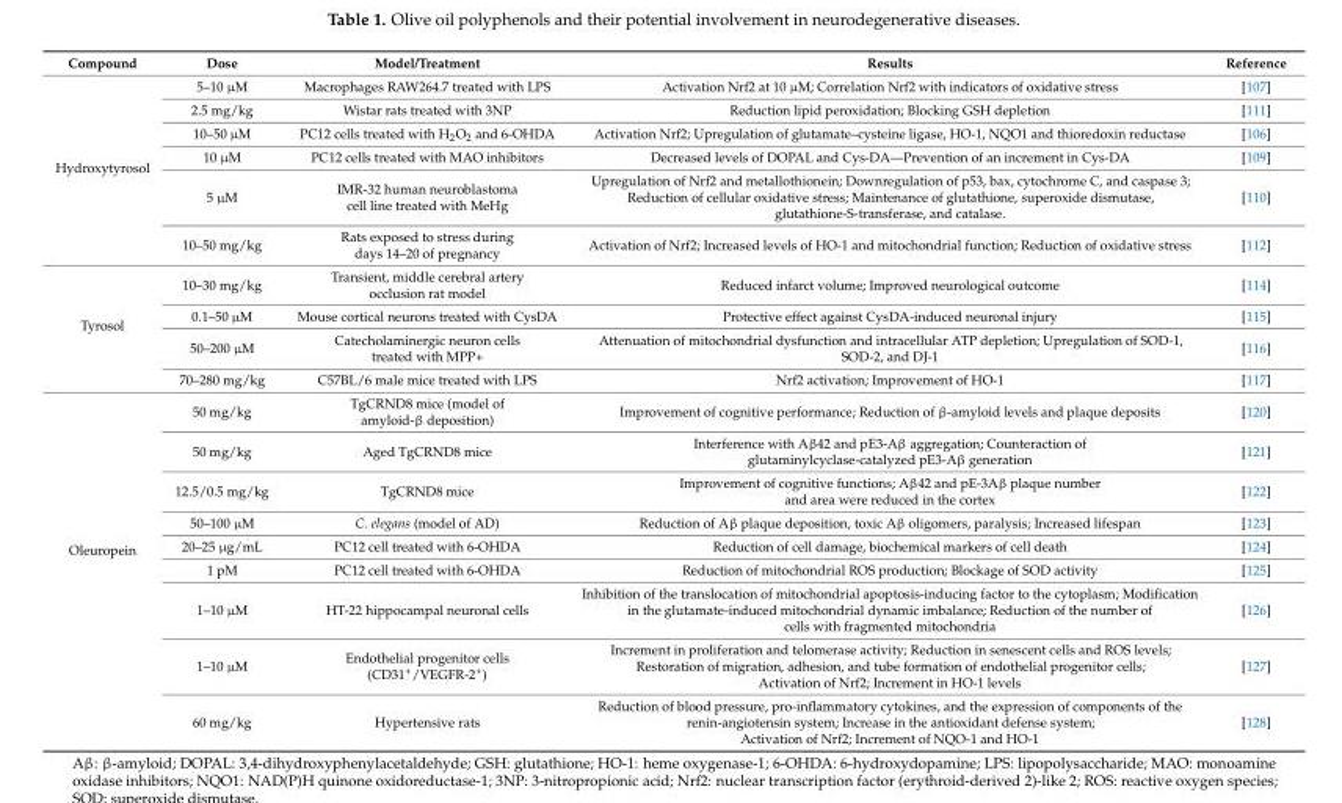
<table><thead><tr><td>Compound</td><td>Dose</td><td>Model/Treatment</td><td>Results</td><td>Reference</td></tr></thead><tbody><tr><td rowspan="6">Hydroxytyrosol</td><td>5–10 µM</td><td>Macrophages RAW264.7 treated with LPS</td><td>Activation Nrf2 at 10 µM; Correlation Nrf2 with indicators of oxidative stress</td><td>[107]</td></tr><tr><td>2.5 mg/kg</td><td>Wistar rats treated with 3NP</td><td>Reduction lipid peroxidation; Blocking GSH depletion</td><td>[111]</td></tr><tr><td>10–50 µM</td><td>PC12 cells treated with H<sub>2</sub>O<sub>2</sub> and 6-OHDA</td><td>Activation Nrf2; Upregulation of glutamate–cysteine ligase, HO-1, NQO1 and thioredoxin reductase</td><td>[106]</td></tr><tr><td>10 µM</td><td>PC12 cells treated with MAO inhibitors</td><td>Decreased levels of DOPAL and Cys-DA—Prevention of an increment in Cys-DA</td><td>[109]</td></tr><tr><td>5 µM</td><td>IMR-32 human neuroblastoma cell line treated with MeHg</td><td>Upregulation of Nrf2 and metallothionein; Downregulation of p53, bax, cytochrome C, and caspase 3; Reduction of cellular oxidative stress; Maintenance of glutathione, superoxide dismutase, glutathione-S-transferase, and catalase.</td><td>[110]</td></tr><tr><td>10–50 mg/kg</td><td>Rats exposed to stress during days 14–20 of pregnancy</td><td>Activation of Nrf2; Increased levels of HO-1 and mitochondrial function; Reduction of oxidative stress</td><td>[112]</td></tr><tr><td rowspan="4">Tyrosol</td><td>10–30 mg/kg</td><td>Transient, middle cerebral artery occlusion rat model</td><td>Reduced infarct volume; Improved neurological outcome</td><td>[114]</td></tr><tr><td>0.1–50 µM</td><td>Mouse cortical neurons treated with CysDA</td><td>Protective effect against CysDA-induced neuronal injury</td><td>[115]</td></tr><tr><td>50–200 µM</td><td>Catecholaminergic neuron cells treated with MPP+</td><td>Attenuation of mitochondrial dysfunction and intracellular ATP depletion; Upregulation of SOD-1, SOD-2, and DJ-1</td><td>[116]</td></tr><tr><td>70–280 mg/kg</td><td>C57BL/6 male mice treated with LPS</td><td>Nrf2 activation; Improvement of HO-1</td><td>[117]</td></tr><tr><td rowspan="9">Oleuropein</td><td>50 mg/kg</td><td>TgCRND8 mice (model of amyloid-β deposition)</td><td>Improvement of cognitive performance; Reduction of β-amyloid levels and plaque deposits</td><td>[120]</td></tr><tr><td>50 mg/kg</td><td>Aged TgCRND8 mice</td><td>Interference with Aβ42 and pE3-Aβ aggregation; Counteraction of glutaminylcyclase-catalyzed pE3-Aβ generation</td><td>[121]</td></tr><tr><td>12.5/0.5 mg/kg</td><td>TgCRND8 mice</td><td>Improvement of cognitive functions; Aβ42 and pE-3Aβ plaque number and area were reduced in the cortex</td><td>[122]</td></tr><tr><td>50–100 µM</td><td>C. elegans (model of AD)</td><td>Reduction of Aβ plaque deposition, toxic Aβ oligomers, paralysis; Increased lifespan</td><td>[123]</td></tr><tr><td>20–25 µg/mL</td><td>PC12 cell treated with 6-OHDA</td><td>Reduction of cell damage, biochemical markers of cell death</td><td>[124]</td></tr><tr><td>1 pM</td><td>PC12 cell treated with 6-OHDA</td><td>Reduction of mitochondrial ROS production; Blockage of SOD activity</td><td>[125]</td></tr><tr><td>1–10 µM</td><td>HT-22 hippocampal neuronal cells</td><td>Inhibition of the translocation of mitochondrial apoptosis-inducing factor to the cytoplasm; Modification in the glutamate-induced mitochondrial dynamic imbalance; Reduction of the number of cells with fragmented mitochondria</td><td>[126]</td></tr><tr><td>1–10 µM</td><td>Endothelial progenitor cells (CD31<sup>+</sup>/VEGFR-2<sup>+</sup>)</td><td>Increment in proliferation and telomerase activity; Reduction in senescent cells and ROS levels; Restoration of migration, adhesion, and tube formation of endothelial progenitor cells; Activation of Nrf2; Increment in HO-1 levels</td><td>[127]</td></tr><tr><td>60 mg/kg</td><td>Hypertensive rats</td><td>Reduction of blood pressure, pro-inflammatory cytokines, and the expression of components of the renin-angiotensin system; Increase in the antioxidant defense system; Activation of Nrf2; Increment of NQO-1 and HO-1</td><td>[128]</td></tr></tbody></table>